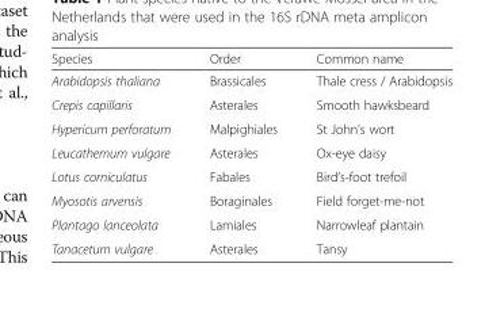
<table><thead><tr><td>Species</td><td>Order</td><td>Common name</td></tr></thead><tbody><tr><td>Arabidopsis thaliana</td><td>Brassicales</td><td>Thale cress / Arabidopsis</td></tr><tr><td>Crepis capillaris</td><td>Asterales</td><td>Smooth hawksbeard</td></tr><tr><td>Hypericum perforatum</td><td>Malpighiales</td><td>St John’s wort</td></tr><tr><td>Leucathemum vulgare</td><td>Asterales</td><td>Ox-eye daisy</td></tr><tr><td>Lotus corniculatus</td><td>Fabales</td><td>Bird’s-foot trefoil</td></tr><tr><td>Myosotis arvensis</td><td>Boraginales</td><td>Field forget-me-not</td></tr><tr><td>Plantago lanceolata</td><td>Lamiales</td><td>Narrowleaf plantain</td></tr><tr><td>Tanacetum vulgare</td><td>Asterales</td><td>Tansy</td></tr></tbody></table>